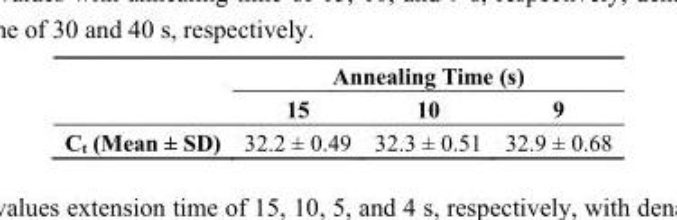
<table><thead><tr><td rowspan="2"></td><td colspan="3">Annealing Time (s)</td></tr><tr><td>15</td><td>10</td><td>9</td></tr></thead><tbody><tr><td>C<sub>t</sub> (Mean ± SD)</td><td>32.2 ± 0.49</td><td>32.3 ± 0.51</td><td>32.9 ± 0.68</td></tr></tbody></table>